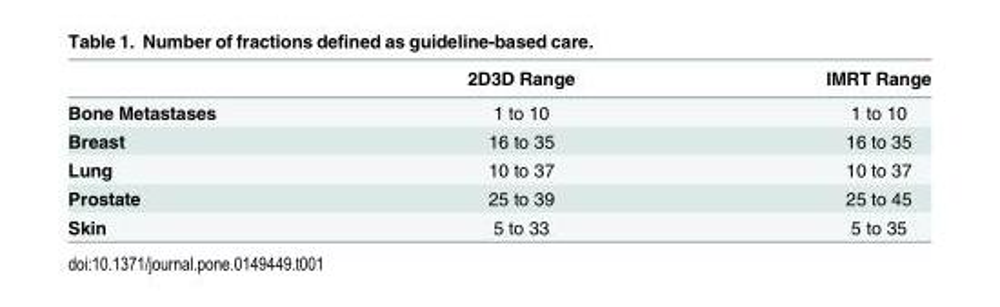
<table><thead><tr><td></td><td>2D3D Range</td><td>IMRT Range</td></tr></thead><tbody><tr><td>Bone Metastases</td><td>1 to 10</td><td>1 to 10</td></tr><tr><td>Breast</td><td>16 to 35</td><td>16 to 35</td></tr><tr><td>Lung</td><td>10 to 37</td><td>10 to 37</td></tr><tr><td>Prostate</td><td>25 to 39</td><td>25 to 45</td></tr><tr><td>Skin</td><td>5 to 33</td><td>5 to 35</td></tr></tbody></table>